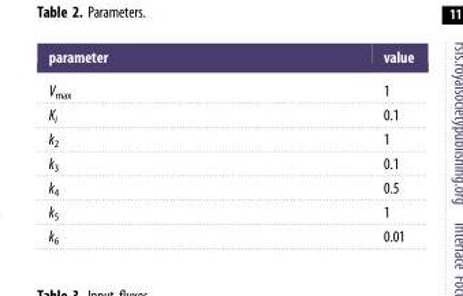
<table><thead><tr><td>parameter</td><td>value</td></tr></thead><tbody><tr><td>V<sub>max</sub></td><td>1</td></tr><tr><td>K<sub>i</sub></td><td>0.1</td></tr><tr><td>k<sub>2</sub></td><td>1</td></tr><tr><td>k<sub>3</sub></td><td>0.1</td></tr><tr><td>k<sub>4</sub></td><td>0.5</td></tr><tr><td>k<sub>5</sub></td><td>1</td></tr><tr><td>k<sub>6</sub></td><td>0.01</td></tr></tbody></table>